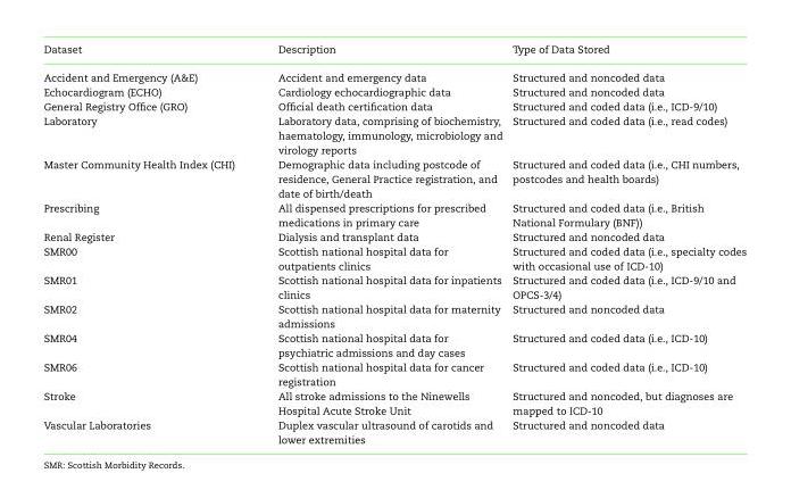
<table><thead><tr><td>Dataset</td><td>Description</td><td>Type of Data Stored</td></tr></thead><tbody><tr><td>Accident and Emergency (A&amp;E)</td><td>Accident and emergency data</td><td>Structured and noncoded data</td></tr><tr><td>Echocardiogram (ECHO)</td><td>Cardiology echocardiographic data</td><td>Structured and noncoded data</td></tr><tr><td>General Registry Office (GRO)</td><td>Official death certification data</td><td>Structured and coded data (i.e., ICD-9/10)</td></tr><tr><td>Laboratory</td><td>Laboratory data, comprising of biochemistry, haematology, immunology, microbiology and virology reports</td><td>Structured and coded data (i.e., read codes)</td></tr><tr><td>Master Community Health Index (CHI)</td><td>Demographic data including postcode of residence, General Practice registration, and date of birth/death</td><td>Structured and coded data (i.e., CHI numbers, postcodes and health boards)</td></tr><tr><td>Prescribing</td><td>All dispensed prescriptions for prescribed medications in primary care</td><td>Structured and coded data (i.e., British National Formulary (BNF))</td></tr><tr><td>Renal Register</td><td>Dialysis and transplant data</td><td>Structured and noncoded data</td></tr><tr><td>SMR00</td><td>Scottish national hospital data for outpatients clinics</td><td>Structured and coded data (i.e., specialty codes with occasional use of ICD-10)</td></tr><tr><td>SMR01</td><td>Scottish national hospital data for inpatients clinics</td><td>Structured and coded data (i.e., ICD-9/10 and OPCS-3/4)</td></tr><tr><td>SMR02</td><td>Scottish national hospital data for maternity admissions</td><td>Structured and noncoded data</td></tr><tr><td>SMR04</td><td>Scottish national hospital data for psychiatric admissions and day cases</td><td>Structured and coded data (i.e., ICD-10)</td></tr><tr><td>SMR06</td><td>Scottish national hospital data for cancer registration</td><td>Structured and coded data (i.e., ICD-10)</td></tr><tr><td>Stroke</td><td>All stroke admissions to the Ninewells Hospital Acute Stroke Unit</td><td>Structured and noncoded, but diagnoses are mapped to ICD-10</td></tr><tr><td>Vascular Laboratories</td><td>Duplex vascular ultrasound of carotids and lower extremities</td><td>Structured and noncoded data</td></tr></tbody></table>